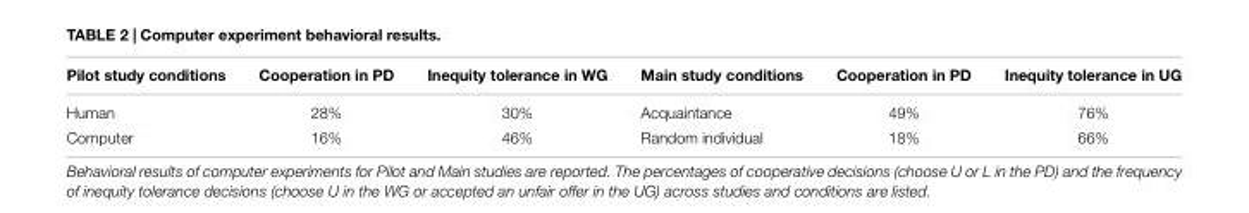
<table><thead><tr><td>Pilot study conditions</td><td>Cooperation in PD</td><td>Inequity tolerance in WG</td><td>Main study conditions</td><td>Cooperation in PD</td><td>Inequity tolerance in UG</td></tr></thead><tbody><tr><td>Human</td><td>28%</td><td>30%</td><td>Acquaintance</td><td>49%</td><td>76%</td></tr><tr><td>Computer</td><td>16%</td><td>46%</td><td>Random individual</td><td>18%</td><td>66%</td></tr></tbody></table>